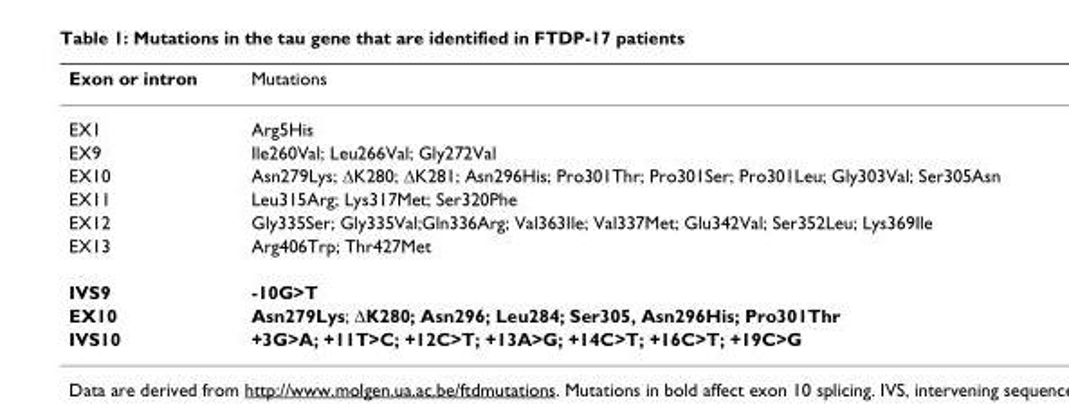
<table><thead><tr><td>Exon or intron</td><td>Mutations</td></tr></thead><tbody><tr><td>EX1</td><td>Arg5His</td></tr><tr><td>EX9</td><td>Ile260Val; Leu266Val; Gly272Val</td></tr><tr><td>EX10</td><td>Asn279Lys; ΔK280; ΔK281; Asn296His; Pro301Thr; Pro301Ser; Pro301Leu; Gly303Val; Ser305Asn</td></tr><tr><td>EX11</td><td>Leu315Arg; Lys317Met; Ser320Phe</td></tr><tr><td>EX12</td><td>Gly335Ser; Gly335Val;Gln336Arg; Val363Ile; Val337Met; Glu342Val; Ser352Leu; Lys369Ile</td></tr><tr><td>EX13</td><td>Arg406Trp; Thr427Met</td></tr><tr><td>IVS9</td><td>-10G&gt;T</td></tr><tr><td>EX10</td><td>Asn279Lys; ΔK280; Asn296; Leu284; Ser305, Asn296His; Pro301Thr</td></tr><tr><td>IVS10</td><td>+3G&gt;A; +11T&gt;C; +12C&gt;T; +13A&gt;G; +14C&gt;T; +16C&gt;T; +19C&gt;G</td></tr></tbody></table>